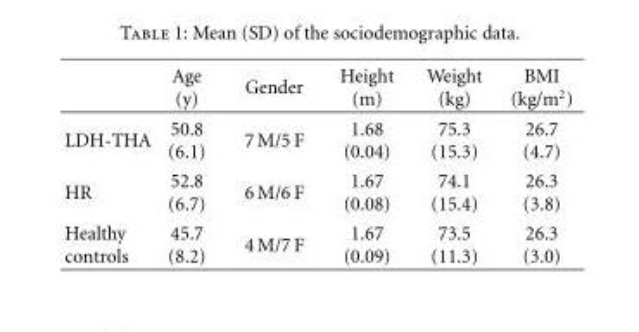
<table><thead><tr><td></td><td>Age (y)</td><td>Gender</td><td>Height (m)</td><td>Weight (kg)</td><td>BMI (kg/m<sup>2</sup>)</td></tr></thead><tbody><tr><td>LDH-THA</td><td>50.8 (6.1)</td><td>7 M/5 F</td><td>1.68 (0.04)</td><td>75.3 (15.3)</td><td>26.7 (4.7)</td></tr><tr><td>HR</td><td>52.8 (6.7)</td><td>6 M/6 F</td><td>1.67 (0.08)</td><td>74.1 (15.4)</td><td>26.3 (3.8)</td></tr><tr><td>Healthy controls</td><td>45.7 (8.2)</td><td>4 M/7 F</td><td>1.67 (0.09)</td><td>73.5 (11.3)</td><td>26.3 (3.0)</td></tr></tbody></table>